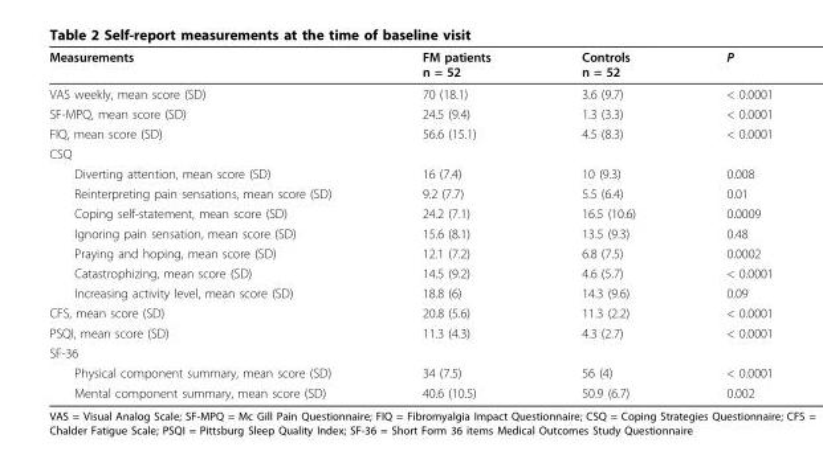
<table><thead><tr><td>Measurements</td><td>FM patients n = 52</td><td>Controls n = 52</td><td>P</td></tr></thead><tbody><tr><td>VAS weekly, mean score (SD)</td><td>70 (18.1)</td><td>3.6 (9.7)</td><td>&lt; 0.0001</td></tr><tr><td>SF-MPQ, mean score (SD)</td><td>24.5 (9.4)</td><td>1.3 (3.3)</td><td>&lt; 0.0001</td></tr><tr><td>FIQ, mean score (SD)</td><td>56.6 (15.1)</td><td>4.5 (8.3)</td><td>&lt; 0.0001</td></tr><tr><td colspan="4">CSQ</td></tr><tr><td>Diverting attention, mean score (SD)</td><td>16 (7.4)</td><td>10 (9.3)</td><td>0.008</td></tr><tr><td>Reinterpreting pain sensations, mean score (SD)</td><td>9.2 (7.7)</td><td>5.5 (6.4)</td><td>0.01</td></tr><tr><td>Coping self-statement, mean score (SD)</td><td>24.2 (7.1)</td><td>16.5 (10.6)</td><td>0.0009</td></tr><tr><td>Ignoring pain sensation, mean score (SD)</td><td>15.6 (8.1)</td><td>13.5 (9.3)</td><td>0.48</td></tr><tr><td>Praying and hoping, mean score (SD)</td><td>12.1 (7.2)</td><td>6.8 (7.5)</td><td>0.0002</td></tr><tr><td>Catastrophizing, mean score (SD)</td><td>14.5 (9.2)</td><td>4.6 (5.7)</td><td>&lt; 0.0001</td></tr><tr><td>Increasing activity level, mean score (SD)</td><td>18.8 (6)</td><td>14.3 (9.6)</td><td>0.09</td></tr><tr><td>CFS, mean score (SD)</td><td>20.8 (5.6)</td><td>11.3 (2.2)</td><td>&lt; 0.0001</td></tr><tr><td>PSQI, mean score (SD)</td><td>11.3 (4.3)</td><td>4.3 (2.7)</td><td>&lt; 0.0001</td></tr><tr><td colspan="4">SF-36</td></tr><tr><td>Physical component summary, mean score (SD)</td><td>34 (7.5)</td><td>56 (4)</td><td>&lt; 0.0001</td></tr><tr><td>Mental component summary, mean score (SD)</td><td>40.6 (10.5)</td><td>50.9 (6.7)</td><td>0.002</td></tr></tbody></table>